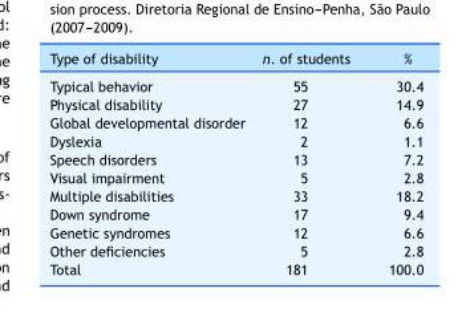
<table><thead><tr><td>Type of disability</td><td>n. of students</td><td>%</td></tr></thead><tbody><tr><td>Typical behavior</td><td>55</td><td>30.4</td></tr><tr><td>Physical disability</td><td>27</td><td>14.9</td></tr><tr><td>Global developmental disorder</td><td>12</td><td>6.6</td></tr><tr><td>Dyslexia</td><td>2</td><td>1.1</td></tr><tr><td>Speech disorders</td><td>13</td><td>7.2</td></tr><tr><td>Visual impairment</td><td>5</td><td>2.8</td></tr><tr><td>Multiple disabilities</td><td>33</td><td>18.2</td></tr><tr><td>Down syndrome</td><td>17</td><td>9.4</td></tr><tr><td>Genetic syndromes</td><td>12</td><td>6.6</td></tr><tr><td>Other deficiencies</td><td>5</td><td>2.8</td></tr><tr><td>Total</td><td>181</td><td>100.0</td></tr></tbody></table>